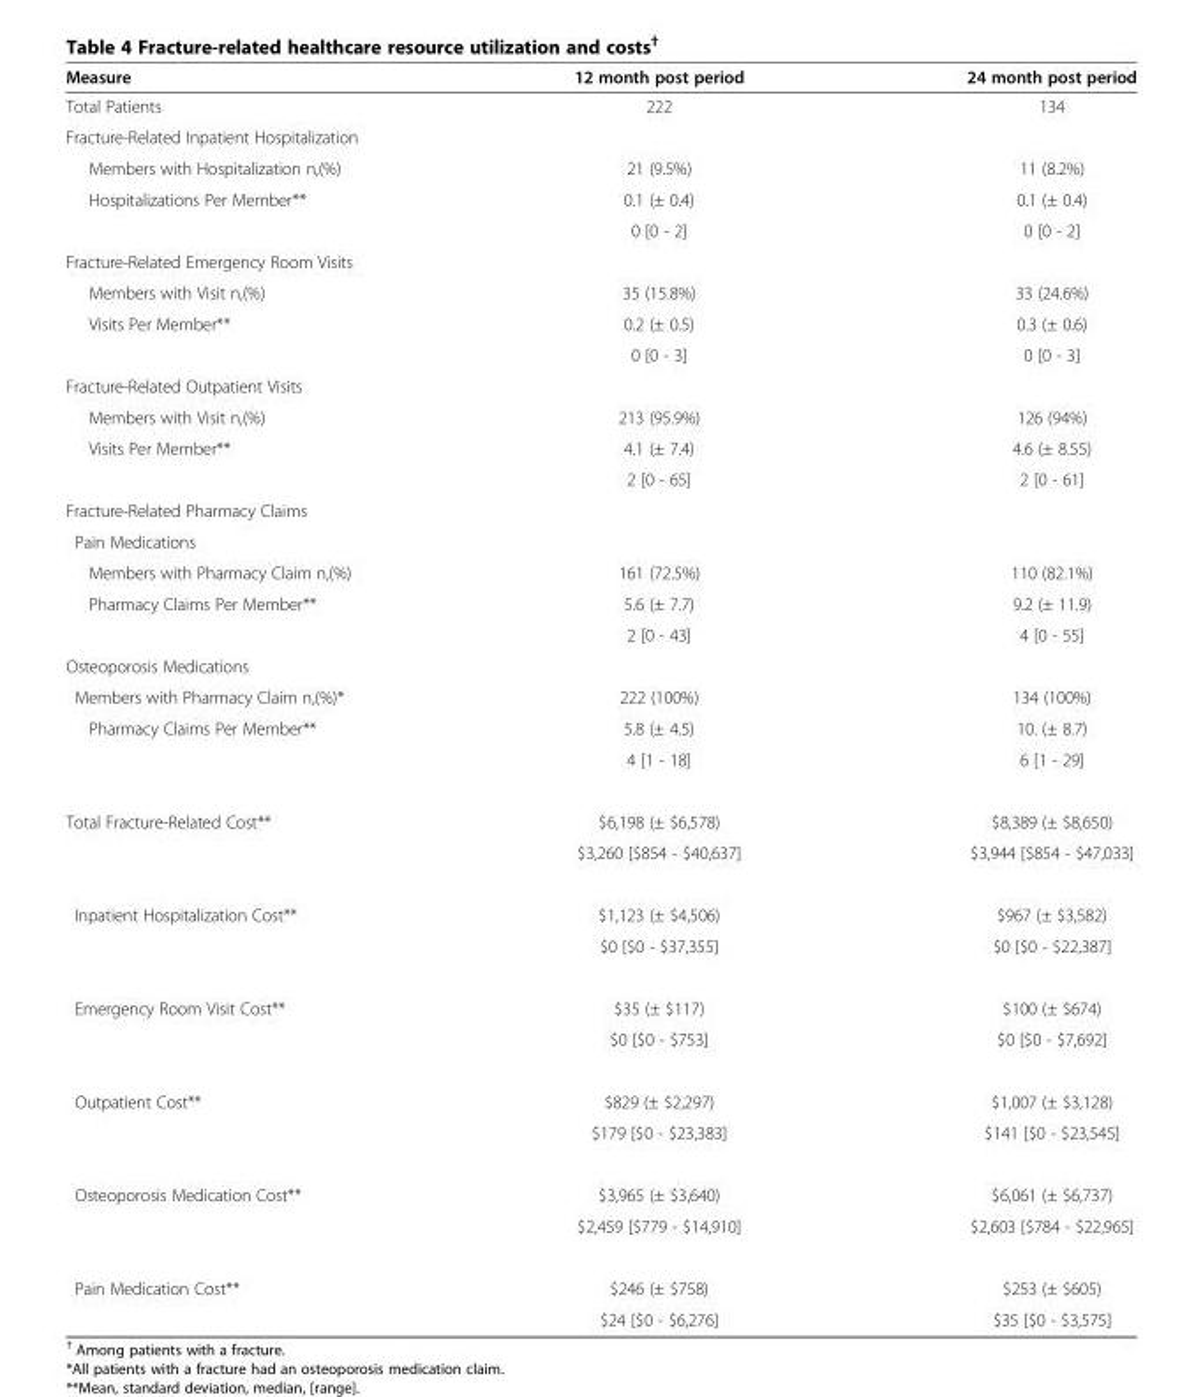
<table><thead><tr><td>Measure</td><td>12 month post period</td><td>24 month post period</td></tr></thead><tbody><tr><td>Total Patients</td><td>222</td><td>134</td></tr><tr><td colspan="3">Fracture-Related Inpatient Hospitalization</td></tr><tr><td>Members with Hospitalization n,(%)</td><td>21 (9.5%)</td><td>11 (8.2%)</td></tr><tr><td rowspan="2">Hospitalizations Per Member**</td><td>0.1 (± 0.4)</td><td>0.1 (± 0.4)</td></tr><tr><td>0 [0 - 2]</td><td>0 [0 - 2]</td></tr><tr><td colspan="3">Fracture-Related Emergency Room Visits</td></tr><tr><td>Members with Visit n,(%)</td><td>35 (15.8%)</td><td>33 (24.6%)</td></tr><tr><td rowspan="2">Visits Per Member**</td><td>0.2 (± 0.5)</td><td>0.3 (± 0.6)</td></tr><tr><td>0 [0 - 3]</td><td>0 [0 - 3]</td></tr><tr><td colspan="3">Fracture-Related Outpatient Visits</td></tr><tr><td>Members with Visit n,(%)</td><td>213 (95.9%)</td><td>126 (94%)</td></tr><tr><td rowspan="2">Visits Per Member**</td><td>4.1 (± 7.4)</td><td>4.6 (± 8.55)</td></tr><tr><td>2 [0 - 65]</td><td>2 [0 - 61]</td></tr><tr><td colspan="3">Fracture-Related Pharmacy Claims</td></tr><tr><td colspan="3">Pain Medications</td></tr><tr><td>Members with Pharmacy Claim n,(%)</td><td>161 (72.5%)</td><td>110 (82.1%)</td></tr><tr><td rowspan="2">Pharmacy Claims Per Member**</td><td>5.6 (± 7.7)</td><td>9.2 (± 11.9)</td></tr><tr><td>2 [0 - 43]</td><td>4 [0 - 55]</td></tr><tr><td colspan="3">Osteoporosis Medications</td></tr><tr><td>Members with Pharmacy Claim n,(%)*</td><td>222 (100%)</td><td>134 (100%)</td></tr><tr><td rowspan="2">Pharmacy Claims Per Member**</td><td>5.8 (± 4.5)</td><td>10. (± 8.7)</td></tr><tr><td>4 [1 - 18]</td><td>6 [1 - 29]</td></tr><tr><td rowspan="2">Total Fracture-Related Cost**</td><td>$6,198 (± $6,578)</td><td>$8,389 (± $8,650)</td></tr><tr><td>$3,260 [$854 - $40,637]</td><td>$3,944 [$854 - $47,033]</td></tr><tr><td rowspan="2">Inpatient Hospitalization Cost**</td><td>$1,123 (± $4,506)</td><td>$967 (± $3,582)</td></tr><tr><td>$0 [$0 - $37,355]</td><td>$0 [$0 - $22,387]</td></tr><tr><td rowspan="2">Emergency Room Visit Cost**</td><td>$35 (± $117)</td><td>$100 (± $674)</td></tr><tr><td>$0 [$0 - $753]</td><td>$0 [$0 - $7,692]</td></tr><tr><td rowspan="2">Outpatient Cost**</td><td>$829 (± $2,297)</td><td>$1,007 (± $3,128)</td></tr><tr><td>$179 [$0 - $23,383]</td><td>$141 [$0 - $23,545]</td></tr><tr><td rowspan="2">Osteoporosis Medication Cost**</td><td>$3,965 (± $3,640)</td><td>$6,061 (± $6,737)</td></tr><tr><td>$2,459 [$779 - $14,910]</td><td>$2,603 [$784 - $22,965]</td></tr><tr><td rowspan="2">Pain Medication Cost**</td><td>$246 (± $758)</td><td>$253 (± $605)</td></tr><tr><td>$24 [$0 - $6,276]</td><td>$35 [$0 - $3,575]</td></tr></tbody></table>